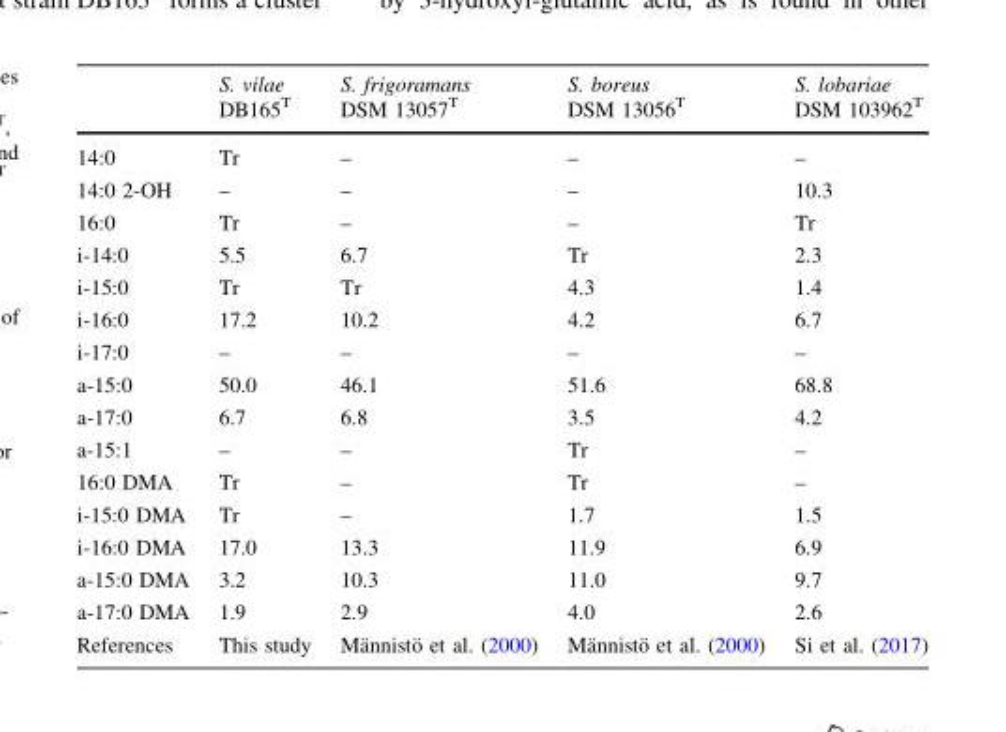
<table><thead><tr><td rowspan="2"></td><td rowspan="2">S. vilae DB165<sup>T</sup></td><td rowspan="2">S. frigoramans DSM 13057<sup>T</sup></td><td rowspan="2">S. boreus DSM 13056<sup>T</sup></td><td rowspan="2">S. lobariae DSM 103962<sup>T</sup></td></tr><tr></tr></thead><tbody><tr><td>14:0</td><td>Tr</td><td>–</td><td>–</td><td>–</td></tr><tr><td>14:0 2-OH</td><td>–</td><td>–</td><td>–</td><td>10.3</td></tr><tr><td>16:0</td><td>Tr</td><td>–</td><td>–</td><td>Tr</td></tr><tr><td>i-14:0</td><td>5.5</td><td>6.7</td><td>Tr</td><td>2.3</td></tr><tr><td>i-15:0</td><td>Tr</td><td>Tr</td><td>4.3</td><td>1.4</td></tr><tr><td>i-16:0</td><td>17.2</td><td>10.2</td><td>4.2</td><td>6.7</td></tr><tr><td>i-17:0</td><td>–</td><td>–</td><td>–</td><td>–</td></tr><tr><td>a-15:0</td><td>50.0</td><td>46.1</td><td>51.6</td><td>68.8</td></tr><tr><td>a-17:0</td><td>6.7</td><td>6.8</td><td>3.5</td><td>4.2</td></tr><tr><td>a-15:1</td><td>–</td><td>–</td><td>Tr</td><td>–</td></tr><tr><td>16:0 DMA</td><td>Tr</td><td>–</td><td>Tr</td><td>–</td></tr><tr><td>i-15:0 DMA</td><td>Tr</td><td>–</td><td>1.7</td><td>1.5</td></tr><tr><td>i-16:0 DMA</td><td>17.0</td><td>13.3</td><td>11.9</td><td>6.9</td></tr><tr><td>a-15:0 DMA</td><td>3.2</td><td>10.3</td><td>11.0</td><td>9.7</td></tr><tr><td>a-17:0 DMA</td><td>1.9</td><td>2.9</td><td>4.0</td><td>2.6</td></tr><tr><td>References</td><td>This study</td><td>Ma¨nnisto¨ et al. (2000)</td><td>Ma¨nnisto¨ et al. (2000)</td><td>Si et al. (2017)</td></tr></tbody></table>